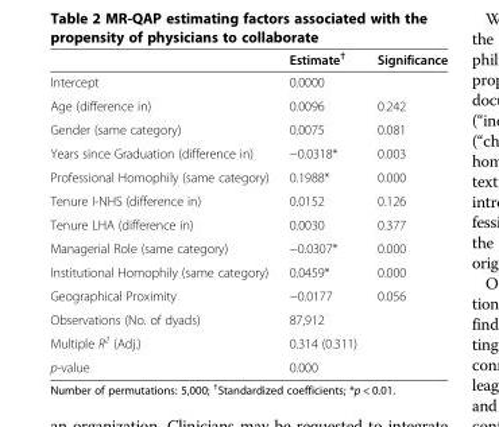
<table><thead><tr><td></td><td>Estimate<sup>†</sup></td><td>Significance</td></tr></thead><tbody><tr><td>Intercept</td><td>0.0000</td><td></td></tr><tr><td>Age (difference in)</td><td>0.0096</td><td>0.242</td></tr><tr><td>Gender (same category)</td><td>0.0075</td><td>0.081</td></tr><tr><td>Years since Graduation (difference in)</td><td>−0.0318*</td><td>0.003</td></tr><tr><td>Professional Homophily (same category)</td><td>0.1988*</td><td>0.000</td></tr><tr><td>Tenure I-NHS (difference in)</td><td>0.0152</td><td>0.126</td></tr><tr><td>Tenure LHA (difference in)</td><td>0.0030</td><td>0.377</td></tr><tr><td>Managerial Role (same category)</td><td>−0.0307*</td><td>0.000</td></tr><tr><td>Institutional Homophily (same category)</td><td>0.0459*</td><td>0.000</td></tr><tr><td>Geographical Proximity</td><td>−0.0177</td><td>0.056</td></tr><tr><td>Observations (No. of dyads)</td><td>87,912</td><td></td></tr><tr><td>Multiple R<sup>2</sup> (Adj.)</td><td>0.314 (0.311)</td><td></td></tr><tr><td>p-value</td><td>0.000</td><td></td></tr></tbody></table>